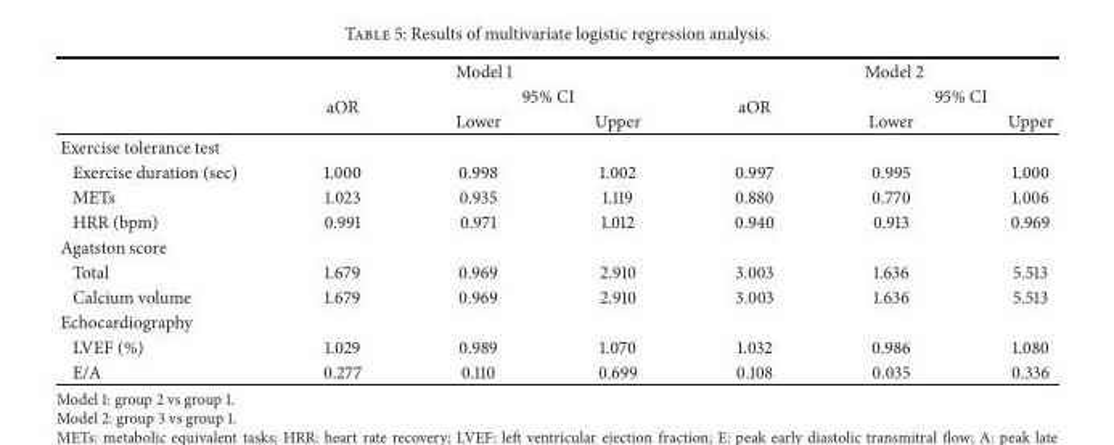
<table><thead><tr><td rowspan="3"></td><td colspan="3">Model 1</td><td colspan="3">Model 2</td></tr><tr><td rowspan="2">aOR</td><td colspan="2">95% CI</td><td rowspan="2">aOR</td><td colspan="2">95% CI</td></tr><tr><td>Lower</td><td>Upper</td><td>Lower</td><td>Upper</td></tr></thead><tbody><tr><td colspan="7">Exercise tolerance test</td></tr><tr><td>Exercise duration (sec)</td><td>1.000</td><td>0.998</td><td>1.002</td><td>0.997</td><td>0.995</td><td>1.000</td></tr><tr><td>METs</td><td>1.023</td><td>0.935</td><td>1.119</td><td>0.880</td><td>0.770</td><td>1.006</td></tr><tr><td>HRR (bpm)</td><td>0.991</td><td>0.971</td><td>1.012</td><td>0.940</td><td>0.913</td><td>0.969</td></tr><tr><td colspan="7">Agatston score</td></tr><tr><td>Total</td><td>1.679</td><td>0.969</td><td>2.910</td><td>3.003</td><td>1.636</td><td>5.513</td></tr><tr><td>Calcium volume</td><td>1.679</td><td>0.969</td><td>2.910</td><td>3.003</td><td>1.636</td><td>5.513</td></tr><tr><td colspan="7">Echocardiography</td></tr><tr><td>LVEF (%)</td><td>1.029</td><td>0.989</td><td>1.070</td><td>1.032</td><td>0.986</td><td>1.080</td></tr><tr><td>E/A</td><td>0.277</td><td>0.110</td><td>0.699</td><td>0.108</td><td>0.035</td><td>0.336</td></tr></tbody></table>